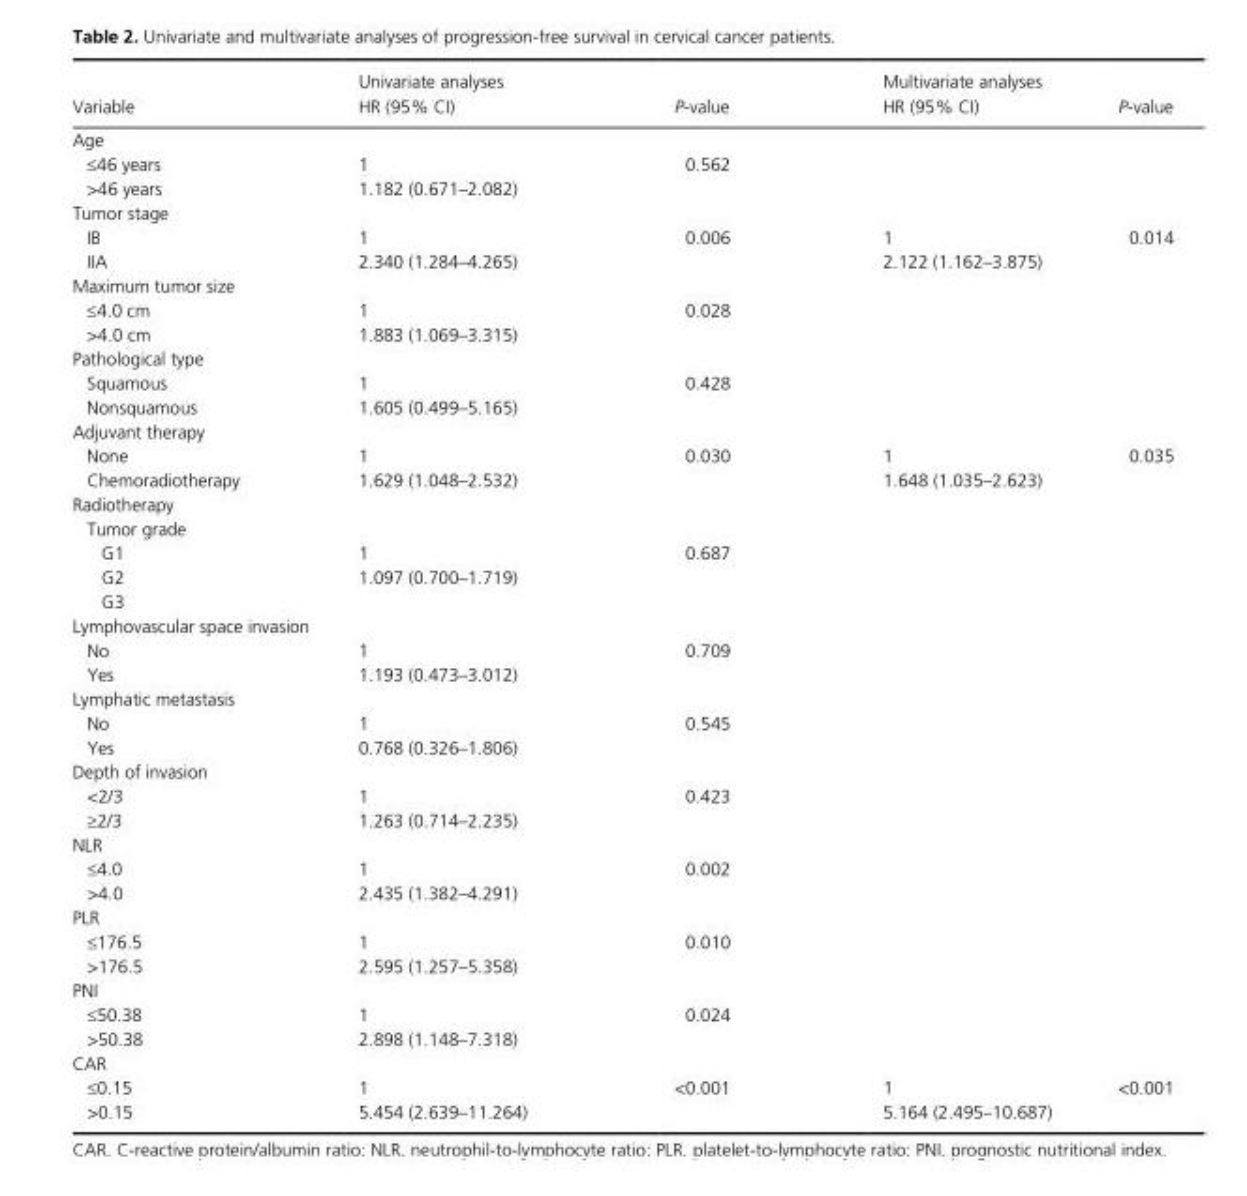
<table><thead><tr><td>Variable</td><td>Univariate analyses HR (95% CI)</td><td>P- value</td><td>Multivariate analyses HR (95% CI)</td><td>P- value</td></tr></thead><tbody><tr><td colspan="5">Age</td></tr><tr><td>≤46 years</td><td>1</td><td>0.562</td><td></td><td></td></tr><tr><td>&gt;46 years</td><td>1.182 (0.671–2.082)</td><td></td><td></td><td></td></tr><tr><td colspan="5">Tumor stage</td></tr><tr><td>IB</td><td>1</td><td>0.006</td><td>1</td><td>0.014</td></tr><tr><td>IIA</td><td>2.340 (1.284–4.265)</td><td></td><td>2.122 (1.162–3.875)</td><td></td></tr><tr><td colspan="5">Maximum tumor size</td></tr><tr><td>≤4.0 cm</td><td>1</td><td>0.028</td><td></td><td></td></tr><tr><td>&gt;4.0 cm</td><td>1.883 (1.069–3.315)</td><td></td><td></td><td></td></tr><tr><td colspan="5">Pathological type</td></tr><tr><td>Squamous</td><td>1</td><td>0.428</td><td></td><td></td></tr><tr><td>Nonsquamous</td><td>1.605 (0.499–5.165)</td><td></td><td></td><td></td></tr><tr><td colspan="5">Adjuvant therapy</td></tr><tr><td>None</td><td>1</td><td>0.030</td><td>1</td><td>0.035</td></tr><tr><td>Chemoradiotherapy</td><td>1.629 (1.048–2.532)</td><td></td><td>1.648 (1.035–2.623)</td><td></td></tr><tr><td colspan="5">Radiotherapy</td></tr><tr><td colspan="5">Tumor grade</td></tr><tr><td>G1</td><td>1</td><td>0.687</td><td></td><td></td></tr><tr><td>G2</td><td>1.097 (0.700–1.719)</td><td></td><td></td><td></td></tr><tr><td colspan="5">G3</td></tr><tr><td colspan="5">Lymphovascular space invasion</td></tr><tr><td>No</td><td>1</td><td>0.709</td><td></td><td></td></tr><tr><td>Yes</td><td>1.193 (0.473–3.012)</td><td></td><td></td><td></td></tr><tr><td colspan="5">Lymphatic metastasis</td></tr><tr><td>No</td><td>1</td><td>0.545</td><td></td><td></td></tr><tr><td>Yes</td><td>0.768 (0.326–1.806)</td><td></td><td></td><td></td></tr><tr><td colspan="5">Depth of invasion</td></tr><tr><td>&lt;2/3</td><td>1</td><td>0.423</td><td></td><td></td></tr><tr><td>≥2/3</td><td>1.263 (0.714–2.235)</td><td></td><td></td><td></td></tr><tr><td colspan="5">NLR</td></tr><tr><td>≤4.0</td><td>1</td><td>0.002</td><td></td><td></td></tr><tr><td>&gt;4.0</td><td>2.435 (1.382–4.291)</td><td></td><td></td><td></td></tr><tr><td colspan="5">PLR</td></tr><tr><td>≤176.5</td><td>1</td><td>0.010</td><td></td><td></td></tr><tr><td>&gt;176.5</td><td>2.595 (1.257–5.358)</td><td></td><td></td><td></td></tr><tr><td colspan="5">PNI</td></tr><tr><td>≤50.38</td><td>1</td><td>0.024</td><td></td><td></td></tr><tr><td>&gt;50.38</td><td>2.898 (1.148–7.318)</td><td></td><td></td><td></td></tr><tr><td colspan="5">CAR</td></tr><tr><td>≤0.15</td><td>1</td><td>&lt;0.001</td><td>1</td><td>&lt;0.001</td></tr><tr><td>&gt;0.15</td><td>5.454 (2.639–11.264)</td><td></td><td>5.164 (2.495–10.687)</td><td></td></tr></tbody></table>